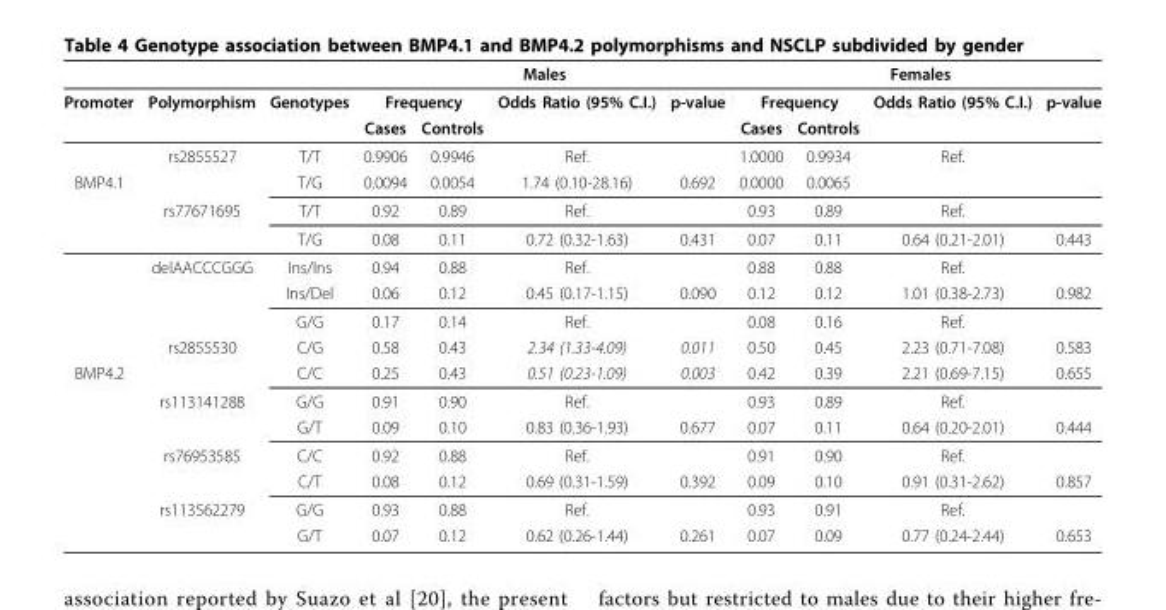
<table><thead><tr><td rowspan="3">Promoter</td><td rowspan="3">Polymorphism</td><td rowspan="3">Genotypes</td><td colspan="4">Males</td><td colspan="4">Females</td></tr><tr><td colspan="2">Frequency</td><td rowspan="2">Odds Ratio (95% C.I.)</td><td rowspan="2">p-value</td><td colspan="2">Frequency</td><td rowspan="2">Odds Ratio (95% C.I.)</td><td rowspan="2">p-value</td></tr><tr><td>Cases</td><td>Controls</td><td>Cases</td><td>Controls</td></tr></thead><tbody><tr><td></td><td>rs2855527</td><td>T/T</td><td>0.9906</td><td>0.9946</td><td>Ref.</td><td></td><td>1.0000</td><td>0.9934</td><td>Ref.</td><td></td></tr><tr><td rowspan="7">BMP4.1</td><td></td><td>T/G</td><td>0.0094</td><td>0.0054</td><td>1.74 (0.10-28.16)</td><td>0.692</td><td>0.0000</td><td>0.0065</td><td></td><td></td></tr><tr><td>rs77671695</td><td>T/T</td><td>0.92</td><td>0.89</td><td>Ref.</td><td></td><td>0.93</td><td>0.89</td><td>Ref.</td><td></td></tr><tr><td></td><td>T/G</td><td>0.08</td><td>0.11</td><td>0.72 (0.32-1.63)</td><td>0.431</td><td>0.07</td><td>0.11</td><td>0.64 (0.21-2.01)</td><td>0.443</td></tr><tr><td>delAACCCGGG</td><td>Ins/Ins</td><td>0.94</td><td>0.88</td><td>Ref.</td><td></td><td>0.88</td><td>0.88</td><td>Ref.</td><td></td></tr><tr><td></td><td>Ins/Del</td><td>0.06</td><td>0.12</td><td>0.45 (0.17-1.15)</td><td>0.090</td><td>0.12</td><td>0.12</td><td>1.01 (0.38-2.73)</td><td>0.982</td></tr><tr><td></td><td>G/G</td><td>0.17</td><td>0.14</td><td>Ref.</td><td></td><td>0.08</td><td>0.16</td><td>Ref.</td><td></td></tr><tr><td>rs2855530</td><td>C/G</td><td>0.58</td><td>0.43</td><td>2.34 (1.33-4.09)</td><td>0.011</td><td>0.50</td><td>0.45</td><td>2.23 (0.71-7.08)</td><td>0.583</td></tr><tr><td rowspan="7">BMP4.2</td><td></td><td>C/C</td><td>0.25</td><td>0.43</td><td>0.51 (0.23-1.09)</td><td>0.003</td><td>0.42</td><td>0.39</td><td>2.21 (0.69-7.15)</td><td>0.655</td></tr><tr><td>rs113141288</td><td>G/G</td><td>0.91</td><td>0.90</td><td>Ref.</td><td></td><td>0.93</td><td>0.89</td><td>Ref.</td><td></td></tr><tr><td></td><td>G/T</td><td>0.09</td><td>0.10</td><td>0.83 (0.36-1.93)</td><td>0.677</td><td>0.07</td><td>0.11</td><td>0.64 (0.20-2.01)</td><td>0.444</td></tr><tr><td>rs76953585</td><td>C/C</td><td>0.92</td><td>0.88</td><td>Ref.</td><td></td><td>0.91</td><td>0.90</td><td>Ref.</td><td></td></tr><tr><td></td><td>C/T</td><td>0.08</td><td>0.12</td><td>0.69 (0.31-1.59)</td><td>0.392</td><td>0.09</td><td>0.10</td><td>0.91 (0.31-2.62)</td><td>0.857</td></tr><tr><td>rs113562279</td><td>G/G</td><td>0.93</td><td>0.88</td><td>Ref.</td><td></td><td>0.93</td><td>0.91</td><td>Ref.</td><td></td></tr><tr><td></td><td>G/T</td><td>0.07</td><td>0.12</td><td>0.62 (0.26-1.44)</td><td>0.261</td><td>0.07</td><td>0.09</td><td>0.77 (0.24-2.44)</td><td>0.653</td></tr></tbody></table>